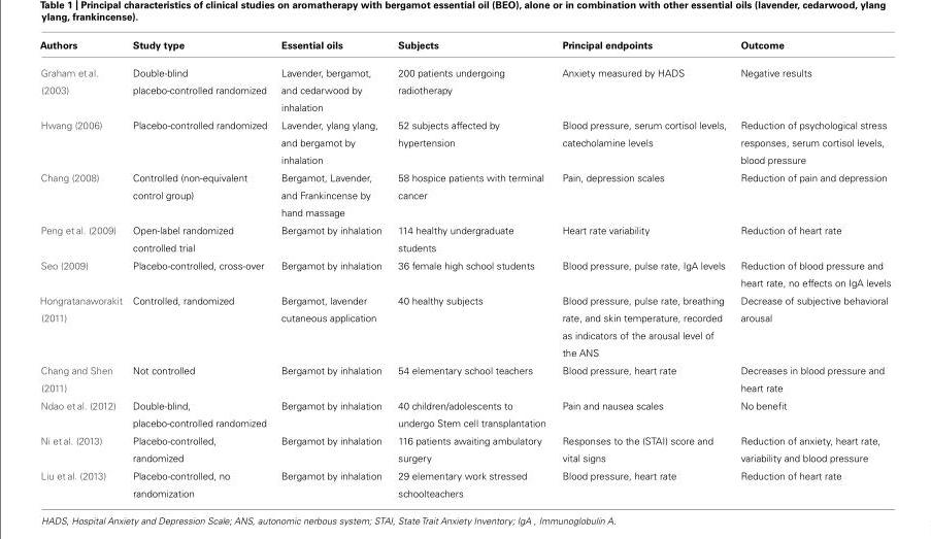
<table><thead><tr><td>Authors</td><td>Study type</td><td>Essential oils</td><td>Subjects</td><td>Principal endpoints</td><td>Outcome</td></tr></thead><tbody><tr><td>Graham et al. (2003)</td><td>Double-blind placebo-controlled randomized</td><td>Lavender, bergamot, and cedarwood by inhalation</td><td>200 patients undergoing radiotherapy</td><td>Anxiety measured by HADS</td><td>Negative results</td></tr><tr><td>Hwang (2006)</td><td>Placebo-controlled randomized</td><td>Lavender, ylang ylang, and bergamot by inhalation</td><td>52 subjects affected by hypertension</td><td>Blood pressure, serum cortisol levels, catecholamine levels</td><td>Reduction of psychological stress responses, serum cortisol levels, blood pressure</td></tr><tr><td>Chang (2008)</td><td>Controlled (non-equivalent control group)</td><td>Bergamot, Lavender, and Frankincense by hand massage</td><td>58 hospice patients with terminal cancer</td><td>Pain, depression scales</td><td>Reduction of pain and depression</td></tr><tr><td>Peng et al. (2009)</td><td>Open-label randomized controlled trial</td><td>Bergamot by inhalation</td><td>114 healthy undergraduate students</td><td>Heart rate variability</td><td>Reduction of heart rate</td></tr><tr><td>Seo (2009)</td><td>Placebo-controlled, cross-over</td><td>Bergamot by inhalation</td><td>36 female high school students</td><td>Blood pressure, pulse rate, IgA levels</td><td>Reduction of blood pressure and heart rate, no effects on IgA levels</td></tr><tr><td>Hongratanaworakit (2011)</td><td>Controlled, randomized</td><td>Bergamot, lavender cutaneous application</td><td>40 healthy subjects</td><td>Blood pressure, pulse rate, breathing rate, and skin temperature, recorded as indicators of the arousal level of the ANS</td><td>Decrease of subjective behavioral arousal</td></tr><tr><td>Chang and Shen (2011)</td><td>Not controlled</td><td>Bergamot by inhalation</td><td>54 elementary school teachers</td><td>Blood pressure, heart rate</td><td>Decreases in blood pressure and heart rate</td></tr><tr><td>Ndao et al. (2012)</td><td>Double-blind, placebo-controlled randomized</td><td>Bergamot by inhalation</td><td>40 children/adolescents to undergo Stem cell transplantation</td><td>Pain and nausea scales</td><td>No benefit</td></tr><tr><td>Ni et al. (2013)</td><td>Placebo-controlled, randomized</td><td>Bergamot by inhalation</td><td>116 patients awaiting ambulatory surgery</td><td>Responses to the (STAI) score and vital signs</td><td>Reduction of anxiety, heart rate, variability and blood pressure</td></tr><tr><td>Liu et al. (2013)</td><td>Placebo-controlled, no randomization</td><td>Bergamot by inhalation</td><td>29 elementary work stressed schoolteachers</td><td>Blood pressure, heart rate</td><td>Reduction of heart rate</td></tr></tbody></table>